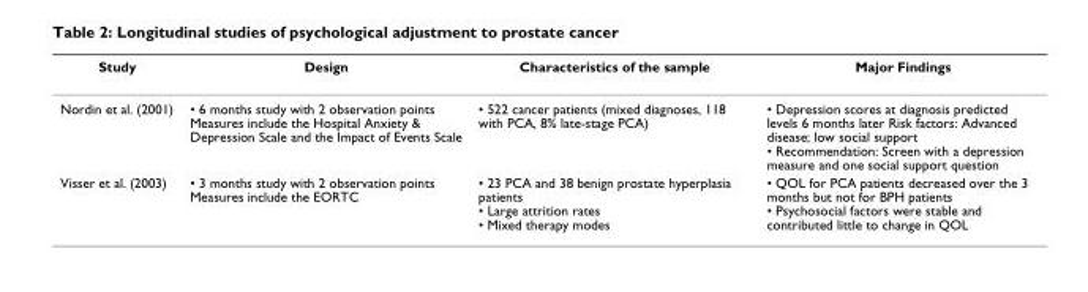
<table><thead><tr><td>Study</td><td>Design</td><td>Characteristics of the sample</td><td>Major Findings</td></tr></thead><tbody><tr><td>Nordin et al. (2001)</td><td>• 6 months study with 2 observation points Measures include the Hospital Anxiety &amp; Depression Scale and the Impact of Events Scale</td><td>• 522 cancer patients (mixed diagnoses, 118 with PCA, 8% late-stage PCA)</td><td>• Depression scores at diagnosis predicted levels 6 months later Risk factors: Advanced disease; low social support • Recommendation: Screen with a depression measure and one social support question</td></tr><tr><td>Visser et al. (2003)</td><td>• 3 months study with 2 observation points Measures include the EORTC</td><td>• 23 PCA and 38 benign prostate hyperplasia patients • Large attrition rates • Mixed therapy modes</td><td>• QOL for PCA patients decreased over the 3 months but not for BPH patients • Psychosocial factors were stable and contributed little to change in QOL</td></tr></tbody></table>